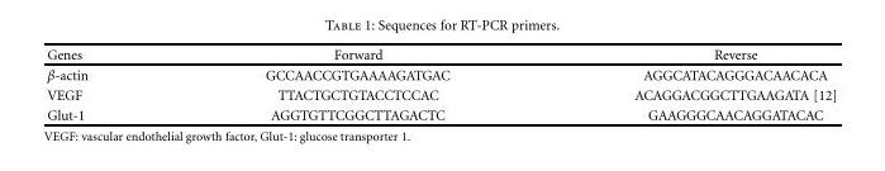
<table><thead><tr><td>Genes</td><td>Forward</td><td>Reverse</td></tr></thead><tbody><tr><td>β-actin</td><td>GCCAACCGTGAAAAGATGAC</td><td>AGGCATACAGGGACAACACA</td></tr><tr><td>VEGF</td><td>TTACTGCTGTACCTCCAC</td><td>ACAGGACGGCTTGAAGATA [12]</td></tr><tr><td>Glut-1</td><td>AGGTGTTCGGCTTAGACTC</td><td>GAAGGGCAACAGGATACAC</td></tr></tbody></table>